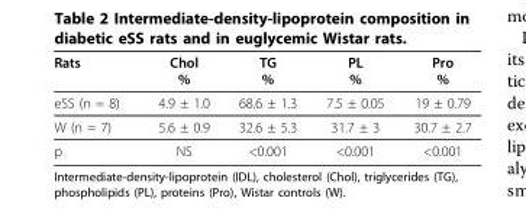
<table><thead><tr><td>Rats</td><td>Chol %</td><td>TG %</td><td>PL %</td><td>Pro %</td></tr></thead><tbody><tr><td>eSS (n = 8)</td><td>4.9 ± 1.0</td><td>68.6 ± 1.3</td><td>7.5 ± 0.05</td><td>19 ± 0.79</td></tr><tr><td>W (n = 7)</td><td>5.6 ± 0.9</td><td>32.6 ± 5.3</td><td>31.7 ± 3</td><td>30.7 ± 2.7</td></tr><tr><td>p</td><td>NS</td><td>&lt;0.001</td><td>&lt;0.001</td><td>&lt;0.001</td></tr></tbody></table>